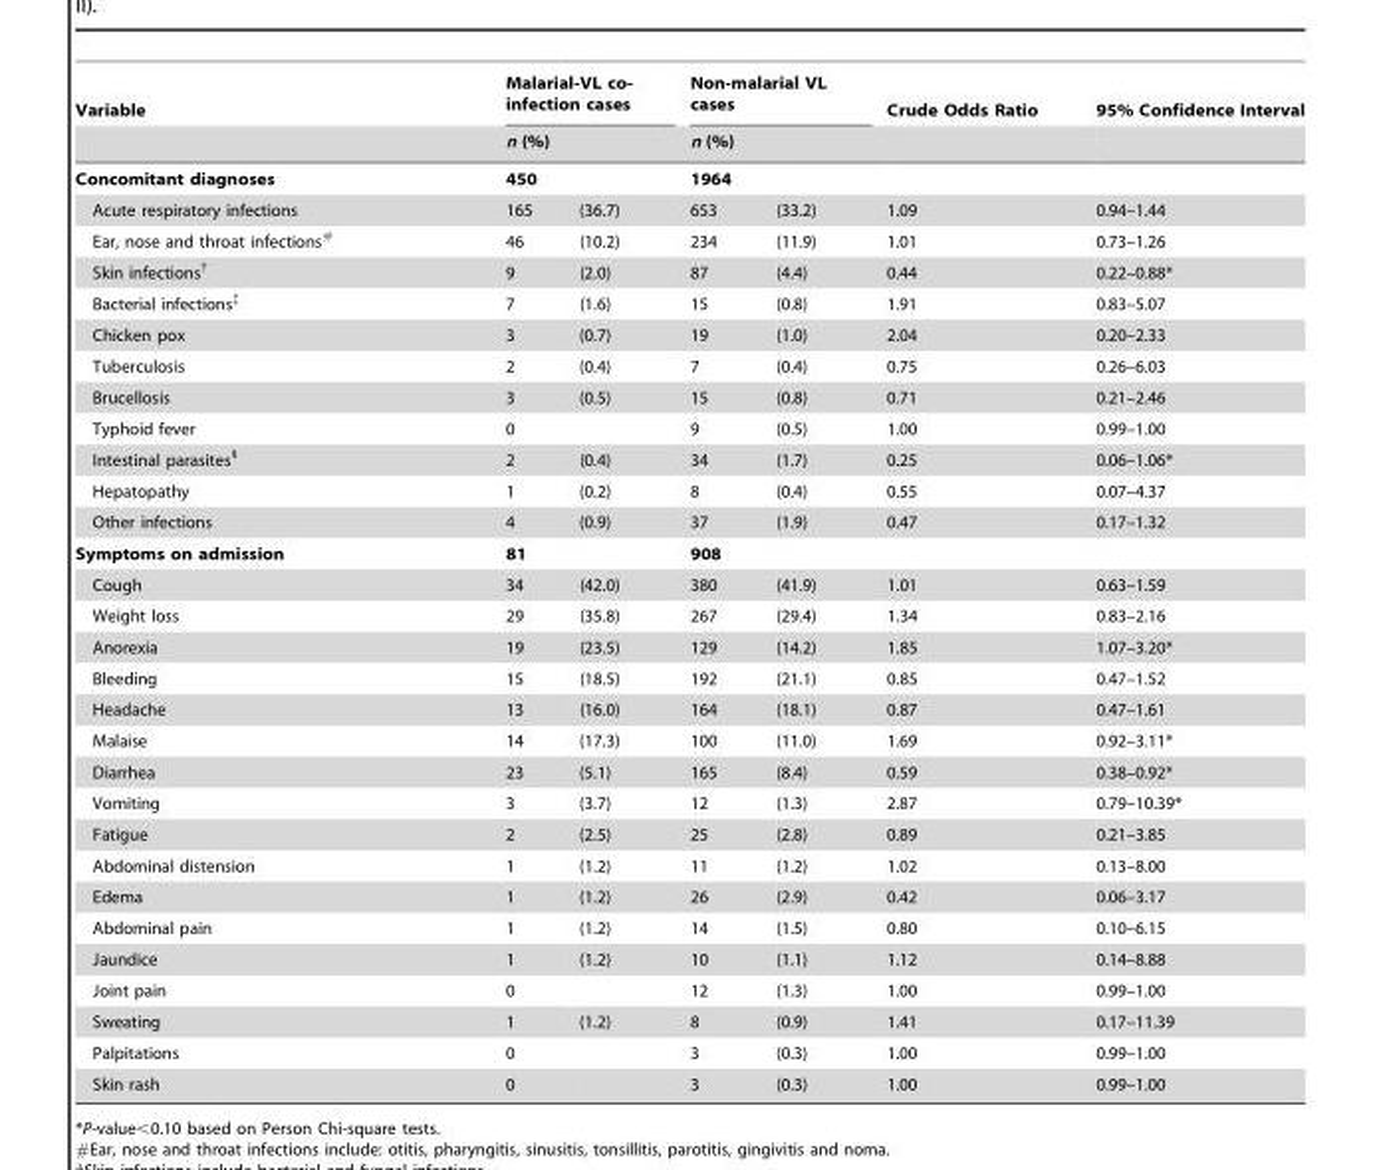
<table><thead><tr><td rowspan="3">Variable Concomitant diagnoses</td><td rowspan="2" colspan="2">Malarial-VL co- infection cases n (%)</td><td rowspan="2" colspan="2">Non-malarial VL cases n (%)</td><td rowspan="3">Crude Odds Ratio</td><td rowspan="3">95% Confidence Interval</td></tr><tr></tr><tr><td>450</td><td></td><td>1964</td><td></td></tr></thead><tbody><tr><td>Acute respiratory infections</td><td>165</td><td>(36.7)</td><td>653</td><td>(33.2)</td><td>1.09</td><td>0.94–1.44</td></tr><tr><td>Ear, nose and throat infections#</td><td>46</td><td>(10.2)</td><td>234</td><td>(11.9)</td><td>1.01</td><td>0.73–1.26</td></tr><tr><td>Skin infections†</td><td>9</td><td>(2.0)</td><td>87</td><td>(4.4)</td><td>0.44</td><td>0.22–0.88*</td></tr><tr><td>Bacterial infections‡</td><td>7</td><td>(1.6)</td><td>15</td><td>(0.8)</td><td>1.91</td><td>0.83–5.07</td></tr><tr><td>Chicken pox</td><td>3</td><td>(0.7)</td><td>19</td><td>(1.0)</td><td>2.04</td><td>0.20–2.33</td></tr><tr><td>Tuberculosis</td><td>2</td><td>(0.4)</td><td>7</td><td>(0.4)</td><td>0.75</td><td>0.26–6.03</td></tr><tr><td>Brucellosis</td><td>3</td><td>(0.5)</td><td>15</td><td>(0.8)</td><td>0.71</td><td>0.21–2.46</td></tr><tr><td>Typhoid fever</td><td>0</td><td></td><td>9</td><td>(0.5)</td><td>1.00</td><td>0.99–1.00</td></tr><tr><td>Intestinal parasites§</td><td>2</td><td>(0.4)</td><td>34</td><td>(1.7)</td><td>0.25</td><td>0.06–1.06*</td></tr><tr><td>Hepatopathy</td><td>1</td><td>(0.2)</td><td>8</td><td>(0.4)</td><td>0.55</td><td>0.07–4.37</td></tr><tr><td>Other infections</td><td>4</td><td>(0.9)</td><td>37</td><td>(1.9)</td><td>0.47</td><td>0.17–1.32</td></tr><tr><td>Symptoms on admission</td><td>81</td><td></td><td>908</td><td></td><td></td><td></td></tr><tr><td>Cough</td><td>34</td><td>(42.0)</td><td>380</td><td>(41.9)</td><td>1.01</td><td>0.63–1.59</td></tr><tr><td>Weight loss</td><td>29</td><td>(35.8)</td><td>267</td><td>(29.4)</td><td>1.34</td><td>0.83–2.16</td></tr><tr><td>Anorexia</td><td>19</td><td>(23.5)</td><td>129</td><td>(14.2)</td><td>1.85</td><td>1.07–3.20*</td></tr><tr><td>Bleeding</td><td>15</td><td>(18.5)</td><td>192</td><td>(21.1)</td><td>0.85</td><td>0.47–1.52</td></tr><tr><td>Headache</td><td>13</td><td>(16.0)</td><td>164</td><td>(18.1)</td><td>0.87</td><td>0.47–1.61</td></tr><tr><td>Malaise</td><td>14</td><td>(17.3)</td><td>100</td><td>(11.0)</td><td>1.69</td><td>0.92–3.11*</td></tr><tr><td>Diarrhea</td><td>23</td><td>(5.1)</td><td>165</td><td>(8.4)</td><td>0.59</td><td>0.38–0.92*</td></tr><tr><td>Vomiting</td><td>3</td><td>(3.7)</td><td>12</td><td>(1.3)</td><td>2.87</td><td>0.79–10.39*</td></tr><tr><td>Fatigue</td><td>2</td><td>(2.5)</td><td>25</td><td>(2.8)</td><td>0.89</td><td>0.21–3.85</td></tr><tr><td>Abdominal distension</td><td>1</td><td>(1.2)</td><td>11</td><td>(1.2)</td><td>1.02</td><td>0.13–8.00</td></tr><tr><td>Edema</td><td>1</td><td>(1.2)</td><td>26</td><td>(2.9)</td><td>0.42</td><td>0.06–3.17</td></tr><tr><td>Abdominal pain</td><td>1</td><td>(1.2)</td><td>14</td><td>(1.5)</td><td>0.80</td><td>0.10–6.15</td></tr><tr><td>Jaundice</td><td>1</td><td>(1.2)</td><td>10</td><td>(1.1)</td><td>1.12</td><td>0.14–8.88</td></tr><tr><td>Joint pain</td><td>0</td><td></td><td>12</td><td>(1.3)</td><td>1.00</td><td>0.99–1.00</td></tr><tr><td>Sweating</td><td>1</td><td>(1.2)</td><td>8</td><td>(0.9)</td><td>1.41</td><td>0.17–11.39</td></tr><tr><td>Palpitations</td><td>0</td><td></td><td>3</td><td>(0.3)</td><td>1.00</td><td>0.99–1.00</td></tr><tr><td>Skin rash</td><td>0</td><td></td><td>3</td><td>(0.3)</td><td>1.00</td><td>0.99–1.00</td></tr></tbody></table>